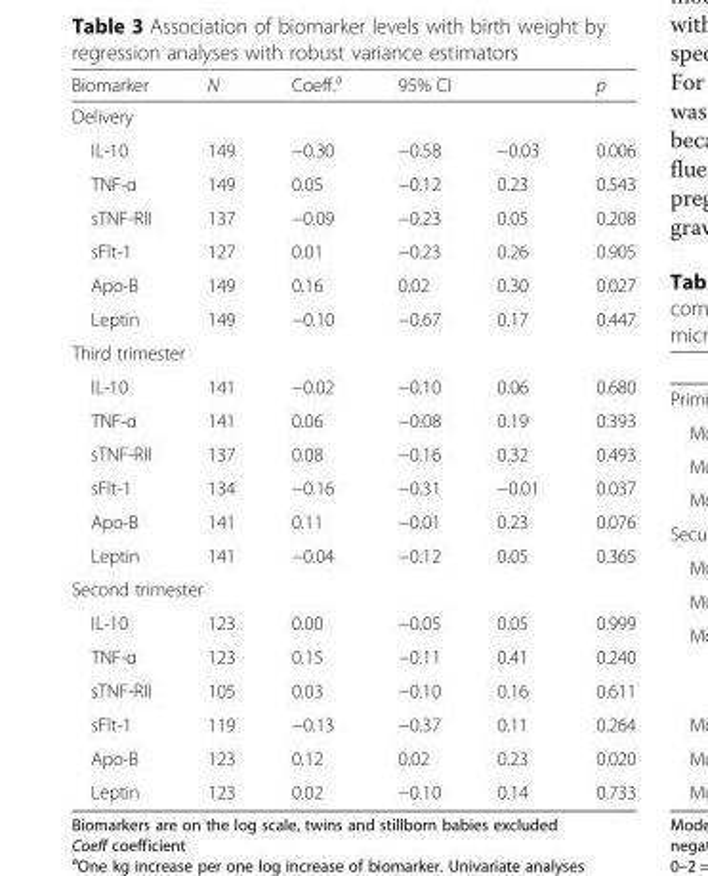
<table><thead><tr><td>Biomarker</td><td>N</td><td>Coeff.<sup>a</sup></td><td colspan="2">95% CI</td><td>p</td></tr><tr><td colspan="6">Delivery</td></tr><tr><td>IL-10</td><td>149</td><td>−0.30</td><td>−0.58</td><td>−0.03</td><td>0.006</td></tr></thead><tbody><tr><td>TNF-α</td><td>149</td><td>0.05</td><td>−0.12</td><td>0.23</td><td>0.543</td></tr><tr><td>sTNF-RII</td><td>137</td><td>−0.09</td><td>−0.23</td><td>0.05</td><td>0.208</td></tr><tr><td>sFlt-1</td><td>127</td><td>0.01</td><td>−0.23</td><td>0.26</td><td>0.905</td></tr><tr><td>Apo-B</td><td>149</td><td>0.16</td><td>0.02</td><td>0.30</td><td>0.027</td></tr><tr><td>Leptin</td><td>149</td><td>−0.10</td><td>−0.67</td><td>0.17</td><td>0.447</td></tr><tr><td colspan="6">Third trimester</td></tr><tr><td>IL-10</td><td>141</td><td>−0.02</td><td>−0.10</td><td>0.06</td><td>0.680</td></tr><tr><td>TNF-α</td><td>141</td><td>0.06</td><td>−0.08</td><td>0.19</td><td>0.393</td></tr><tr><td>sTNF-RII</td><td>137</td><td>0.08</td><td>−0.16</td><td>0.32</td><td>0.493</td></tr><tr><td>sFlt-1</td><td>134</td><td>−0.16</td><td>−0.31</td><td>−0.01</td><td>0.037</td></tr><tr><td>Apo-B</td><td>141</td><td>0.11</td><td>−0.01</td><td>0.23</td><td>0.076</td></tr><tr><td>Leptin</td><td>141</td><td>−0.04</td><td>−0.12</td><td>0.05</td><td>0.365</td></tr><tr><td colspan="6">Second trimester</td></tr><tr><td>IL-10</td><td>123</td><td>0.00</td><td>−0.05</td><td>0.05</td><td>0.999</td></tr><tr><td>TNF-α</td><td>123</td><td>0.15</td><td>−0.11</td><td>0.41</td><td>0.240</td></tr><tr><td>sTNF-RII</td><td>105</td><td>0.03</td><td>−0.10</td><td>0.16</td><td>0.611</td></tr><tr><td>sFlt-1</td><td>119</td><td>−0.13</td><td>−0.37</td><td>0.11</td><td>0.264</td></tr><tr><td>Apo-B</td><td>123</td><td>0.12</td><td>0.02</td><td>0.23</td><td>0.020</td></tr><tr><td>Leptin</td><td>123</td><td>0.02</td><td>−0.10</td><td>0.14</td><td>0.733</td></tr></tbody></table>